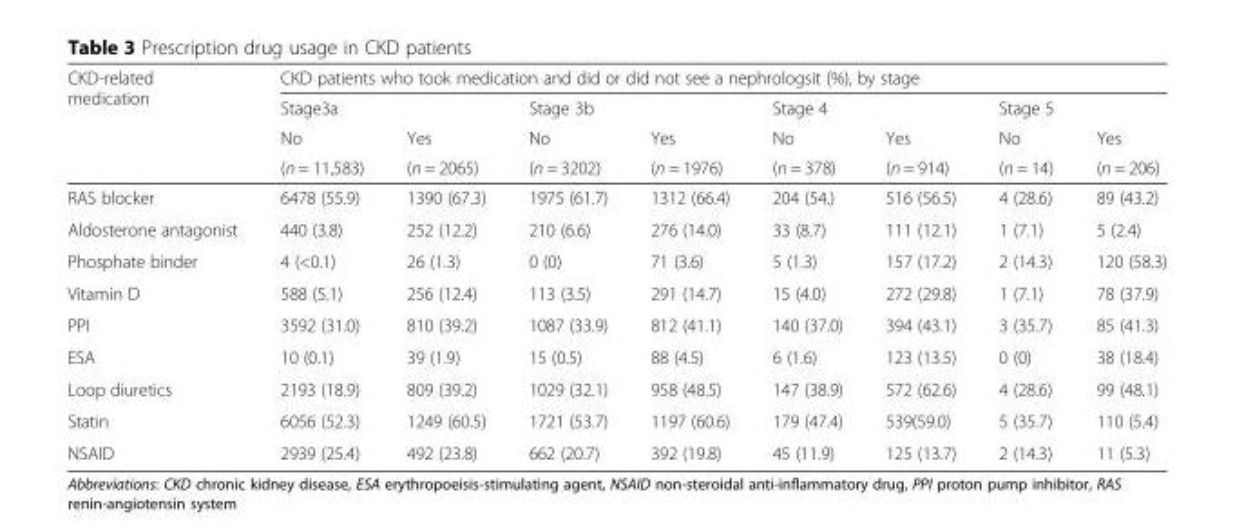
<table><thead><tr><td rowspan="4">CKD-related medication</td><td colspan="8">CKD patients who took medication and did or did not see a nephrologsit (%), by stage</td></tr><tr><td rowspan="3">Stage3a No (n = 11,583)</td><td rowspan="3">Yes (n = 2065)</td><td rowspan="3">Stage 3b No (n = 3202)</td><td rowspan="3">Yes (n = 1976)</td><td rowspan="3">Stage 4 No (n = 378)</td><td rowspan="3">Yes (n = 914)</td><td rowspan="3">Stage 5 No (n = 14)</td><td rowspan="3">Yes (n = 206)</td></tr><tr></tr><tr></tr></thead><tbody><tr><td>RAS blocker</td><td>6478 (55.9)</td><td>1390 (67.3)</td><td>1975 (61.7)</td><td>1312 (66.4)</td><td>204 (54.)</td><td>516 (56.5)</td><td>4 (28.6)</td><td>89 (43.2)</td></tr><tr><td>Aldosterone antagonist</td><td>440 (3.8)</td><td>252 (12.2)</td><td>210 (6.6)</td><td>276 (14.0)</td><td>33 (8.7)</td><td>111 (12.1)</td><td>1 (7.1)</td><td>5 (2.4)</td></tr><tr><td>Phosphate binder</td><td>4 (&lt;0.1)</td><td>26 (1.3)</td><td>0 (0)</td><td>71 (3.6)</td><td>5 (1.3)</td><td>157 (17.2)</td><td>2 (14.3)</td><td>120 (58.3)</td></tr><tr><td>Vitamin D</td><td>588 (5.1)</td><td>256 (12.4)</td><td>113 (3.5)</td><td>291 (14.7)</td><td>15 (4.0)</td><td>272 (29.8)</td><td>1 (7.1)</td><td>78 (37.9)</td></tr><tr><td>PPI</td><td>3592 (31.0)</td><td>810 (39.2)</td><td>1087 (33.9)</td><td>812 (41.1)</td><td>140 (37.0)</td><td>394 (43.1)</td><td>3 (35.7)</td><td>85 (41.3)</td></tr><tr><td>ESA</td><td>10 (0.1)</td><td>39 (1.9)</td><td>15 (0.5)</td><td>88 (4.5)</td><td>6 (1.6)</td><td>123 (13.5)</td><td>0 (0)</td><td>38 (18.4)</td></tr><tr><td>Loop diuretics</td><td>2193 (18.9)</td><td>809 (39.2)</td><td>1029 (32.1)</td><td>958 (48.5)</td><td>147 (38.9)</td><td>572 (62.6)</td><td>4 (28.6)</td><td>99 (48.1)</td></tr><tr><td>Statin</td><td>6056 (52.3)</td><td>1249 (60.5)</td><td>1721 (53.7)</td><td>1197 (60.6)</td><td>179 (47.4)</td><td>539(59.0)</td><td>5 (35.7)</td><td>110 (5.4)</td></tr><tr><td>NSAID</td><td>2939 (25.4)</td><td>492 (23.8)</td><td>662 (20.7)</td><td>392 (19.8)</td><td>45 (11.9)</td><td>125 (13.7)</td><td>2 (14.3)</td><td>11 (5.3)</td></tr></tbody></table>